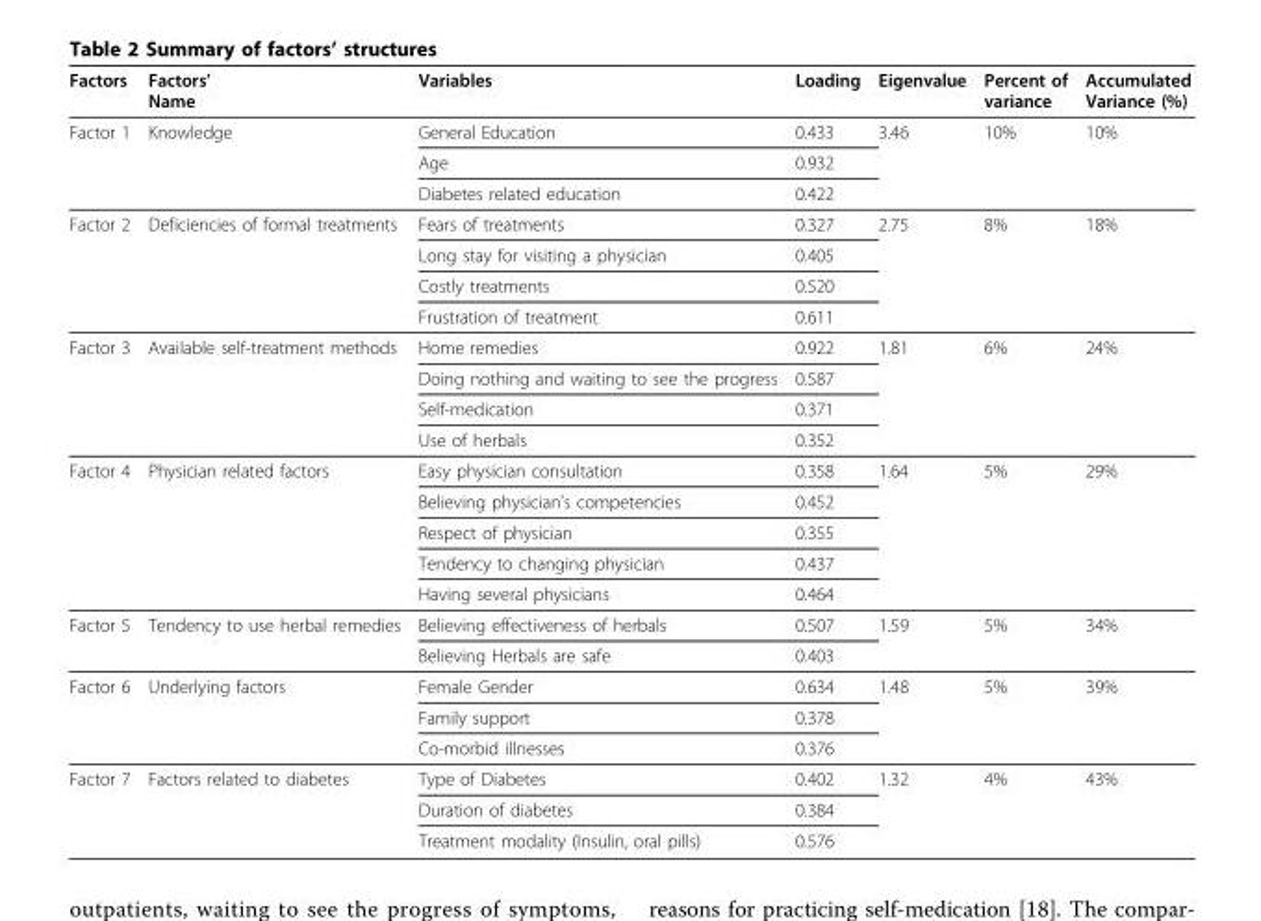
<table><thead><tr><td>Factors</td><td>Factors’ Name</td><td>Variables</td><td>Loading</td><td>Eigenvalue</td><td>Percent of variance</td><td>Accumulated Variance (%)</td></tr></thead><tbody><tr><td rowspan="3">Factor 1</td><td>Knowledge</td><td>General Education</td><td>0.433</td><td>3.46</td><td>10%</td><td>10%</td></tr><tr><td></td><td>Age</td><td>0.932</td><td></td><td></td><td></td></tr><tr><td></td><td>Diabetes related education</td><td>0.422</td><td></td><td></td><td></td></tr><tr><td rowspan="4">Factor 2</td><td>Deficiencies of formal treatments</td><td>Fears of treatments</td><td>0.327</td><td>2.75</td><td>8%</td><td>18%</td></tr><tr><td></td><td>Long stay for visiting a physician</td><td>0.405</td><td></td><td></td><td></td></tr><tr><td></td><td>Costly treatments</td><td>0.520</td><td></td><td></td><td></td></tr><tr><td></td><td>Frustration of treatment</td><td>0.611</td><td></td><td></td><td></td></tr><tr><td rowspan="4">Factor 3</td><td>Available self-treatment methods</td><td>Home remedies</td><td>0.922</td><td>1.81</td><td>6%</td><td>24%</td></tr><tr><td></td><td>Doing nothing and waiting to see the progress</td><td>0.587</td><td></td><td></td><td></td></tr><tr><td></td><td>Self-medication</td><td>0.371</td><td></td><td></td><td></td></tr><tr><td></td><td>Use of herbals</td><td>0.352</td><td></td><td></td><td></td></tr><tr><td rowspan="5">Factor 4</td><td>Physician related factors</td><td>Easy physician consultation</td><td>0.358</td><td>1.64</td><td>5%</td><td>29%</td></tr><tr><td></td><td>Believing physician’s competencies</td><td>0.452</td><td></td><td></td><td></td></tr><tr><td></td><td>Respect of physician</td><td>0.355</td><td></td><td></td><td></td></tr><tr><td></td><td>Tendency to changing physician</td><td>0.437</td><td></td><td></td><td></td></tr><tr><td></td><td>Having several physicians</td><td>0.464</td><td></td><td></td><td></td></tr><tr><td rowspan="2">Factor 5</td><td>Tendency to use herbal remedies</td><td>Believing effectiveness of herbals</td><td>0.507</td><td>1.59</td><td>5%</td><td>34%</td></tr><tr><td></td><td>Believing Herbals are safe</td><td>0.403</td><td></td><td></td><td></td></tr><tr><td rowspan="3">Factor 6</td><td>Underlying factors</td><td>Female Gender</td><td>0.634</td><td>1.48</td><td>5%</td><td>39%</td></tr><tr><td></td><td>Family support</td><td>0.378</td><td></td><td></td><td></td></tr><tr><td></td><td>Co-morbid illnesses</td><td>0.376</td><td></td><td></td><td></td></tr><tr><td rowspan="3">Factor 7</td><td>Factors related to diabetes</td><td>Type of Diabetes</td><td>0.402</td><td>1.32</td><td>4%</td><td>43%</td></tr><tr><td></td><td>Duration of diabetes</td><td>0.384</td><td></td><td></td><td></td></tr><tr><td></td><td>Treatment modality (Insulin, oral pills)</td><td>0.576</td><td></td><td></td><td></td></tr></tbody></table>